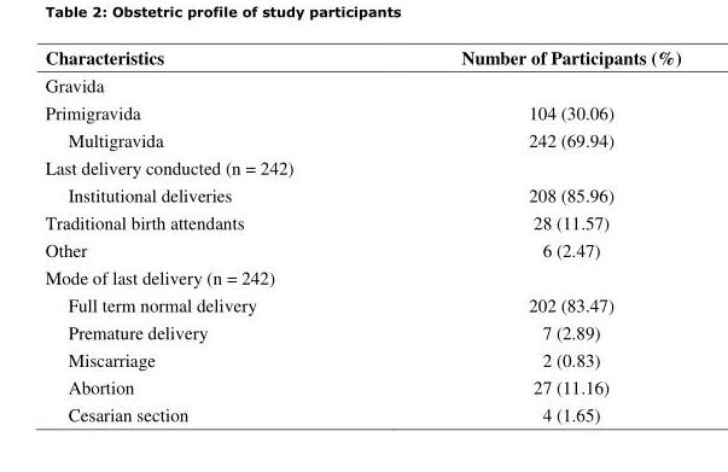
<table><thead><tr><td>Characteristics</td><td>Number of Participants (%)</td></tr></thead><tbody><tr><td colspan="2">Gravida</td></tr><tr><td>Primigravida</td><td>104 (30.06)</td></tr><tr><td>Multigravida</td><td>242 (69.94)</td></tr><tr><td colspan="2">Last delivery conducted (n = 242)</td></tr><tr><td>Institutional deliveries</td><td>208 (85.96)</td></tr><tr><td>Traditional birth attendants</td><td>28 (11.57)</td></tr><tr><td>Other</td><td>6 (2.47)</td></tr><tr><td colspan="2">Mode of last delivery (n = 242)</td></tr><tr><td>Full term normal delivery</td><td>202 (83.47)</td></tr><tr><td>Premature delivery</td><td>7 (2.89)</td></tr><tr><td>Miscarriage</td><td>2 (0.83)</td></tr><tr><td>Abortion</td><td>27 (11.16)</td></tr><tr><td>Cesarian section</td><td>4 (1.65)</td></tr></tbody></table>